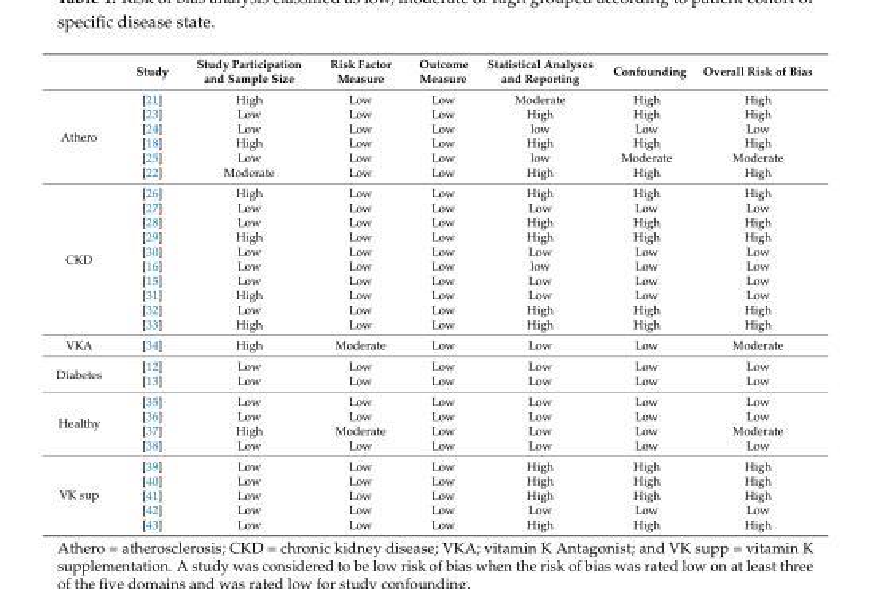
<table><thead><tr><td></td><td>Study</td><td>Study Participation and Sample Size</td><td>Risk Factor Measure</td><td>Outcome Measure</td><td>Statistical Analyses and Reporting</td><td>Confounding</td><td>Overall Risk of Bias</td></tr></thead><tbody><tr><td rowspan="6">Athero</td><td>[21]</td><td>High</td><td>Low</td><td>Low</td><td>Moderate</td><td>High</td><td>High</td></tr><tr><td>[23]</td><td>Low</td><td>Low</td><td>Low</td><td>High</td><td>High</td><td>High</td></tr><tr><td>[24]</td><td>Low</td><td>Low</td><td>Low</td><td>low</td><td>Low</td><td>Low</td></tr><tr><td>[18]</td><td>High</td><td>Low</td><td>Low</td><td>High</td><td>High</td><td>High</td></tr><tr><td>[25]</td><td>Low</td><td>Low</td><td>Low</td><td>low</td><td>Moderate</td><td>Moderate</td></tr><tr><td>[22]</td><td>Moderate</td><td>Low</td><td>Low</td><td>High</td><td>High</td><td>High</td></tr><tr><td rowspan="10">CKD</td><td>[26]</td><td>High</td><td>Low</td><td>Low</td><td>High</td><td>High</td><td>High</td></tr><tr><td>[27]</td><td>Low</td><td>Low</td><td>Low</td><td>Low</td><td>Low</td><td>Low</td></tr><tr><td>[28]</td><td>Low</td><td>Low</td><td>Low</td><td>High</td><td>High</td><td>High</td></tr><tr><td>[29]</td><td>High</td><td>Low</td><td>Low</td><td>High</td><td>High</td><td>High</td></tr><tr><td>[30]</td><td>Low</td><td>Low</td><td>Low</td><td>Low</td><td>Low</td><td>Low</td></tr><tr><td>[16]</td><td>Low</td><td>Low</td><td>Low</td><td>low</td><td>Low</td><td>Low</td></tr><tr><td>[15]</td><td>Low</td><td>Low</td><td>Low</td><td>Low</td><td>Low</td><td>Low</td></tr><tr><td>[31]</td><td>High</td><td>Low</td><td>Low</td><td>Low</td><td>Low</td><td>Low</td></tr><tr><td>[32]</td><td>Low</td><td>Low</td><td>Low</td><td>High</td><td>High</td><td>High</td></tr><tr><td>[33]</td><td>High</td><td>Low</td><td>Low</td><td>High</td><td>High</td><td>High</td></tr><tr><td>VKA</td><td>[34]</td><td>High</td><td>Moderate</td><td>Low</td><td>Low</td><td>Low</td><td>Moderate</td></tr><tr><td rowspan="2">Diabetes</td><td>[12]</td><td>Low</td><td>Low</td><td>Low</td><td>Low</td><td>Low</td><td>Low</td></tr><tr><td>[13]</td><td>Low</td><td>Low</td><td>Low</td><td>Low</td><td>Low</td><td>Low</td></tr><tr><td rowspan="4">Healthy</td><td>[35]</td><td>Low</td><td>Low</td><td>Low</td><td>Low</td><td>Low</td><td>Low</td></tr><tr><td>[36]</td><td>Low</td><td>Low</td><td>Low</td><td>Low</td><td>Low</td><td>Low</td></tr><tr><td>[37]</td><td>High</td><td>Moderate</td><td>Low</td><td>Low</td><td>Low</td><td>Moderate</td></tr><tr><td>[38]</td><td>Low</td><td>Low</td><td>Low</td><td>Low</td><td>Low</td><td>Low</td></tr><tr><td rowspan="5">VK sup</td><td>[39]</td><td>Low</td><td>Low</td><td>Low</td><td>High</td><td>High</td><td>High</td></tr><tr><td>[40]</td><td>Low</td><td>Low</td><td>Low</td><td>High</td><td>High</td><td>High</td></tr><tr><td>[41]</td><td>Low</td><td>Low</td><td>Low</td><td>High</td><td>High</td><td>High</td></tr><tr><td>[42]</td><td>Low</td><td>Low</td><td>Low</td><td>Low</td><td>Low</td><td>Low</td></tr><tr><td>[43]</td><td>Low</td><td>Low</td><td>Low</td><td>High</td><td>High</td><td>High</td></tr></tbody></table>